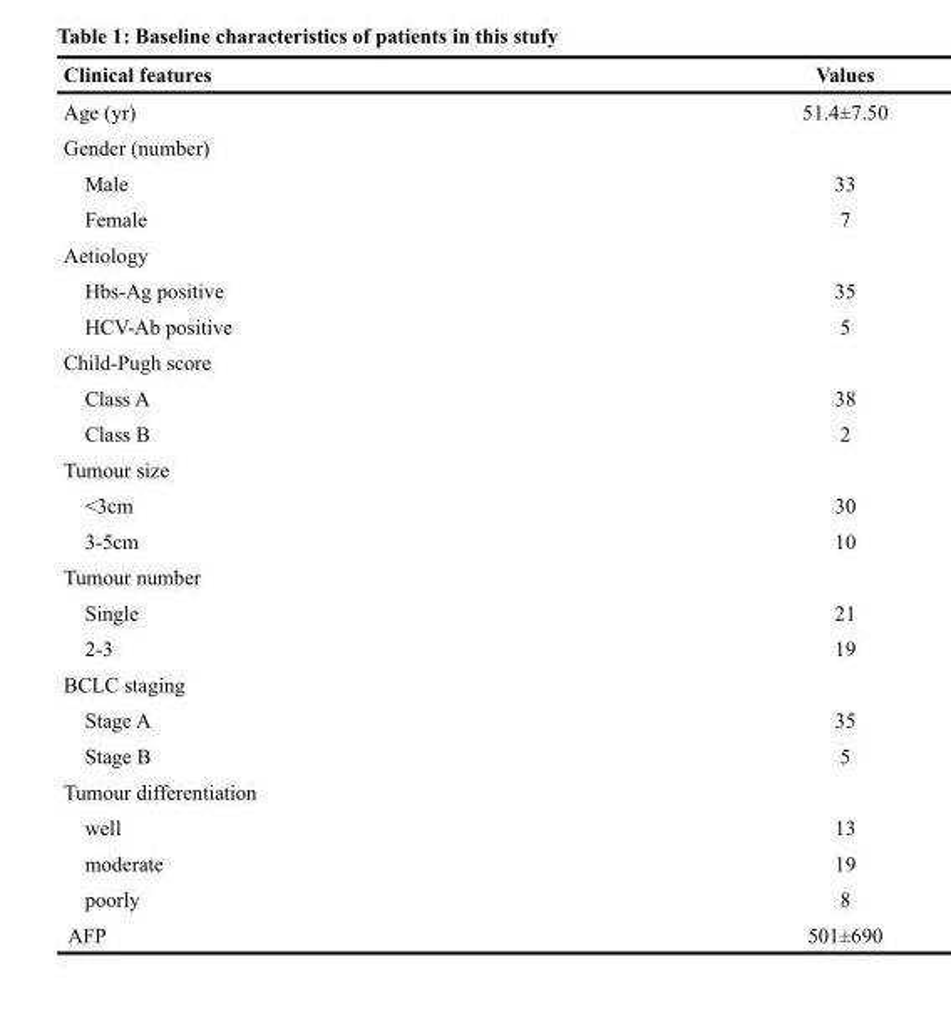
<table><thead><tr><td>Clinical features</td><td>Values</td></tr></thead><tbody><tr><td>Age (yr)</td><td>51.4±7.50</td></tr><tr><td colspan="2">Gender (number)</td></tr><tr><td>Male</td><td>33</td></tr><tr><td>Female</td><td>7</td></tr><tr><td colspan="2">Aetiology</td></tr><tr><td>Hbs-Ag positive</td><td>35</td></tr><tr><td>HCV-Ab positive</td><td>5</td></tr><tr><td colspan="2">Child-Pugh score</td></tr><tr><td>Class A</td><td>38</td></tr><tr><td>Class B</td><td>2</td></tr><tr><td colspan="2">Tumour size</td></tr><tr><td>&lt;3cm</td><td>30</td></tr><tr><td>3-5cm</td><td>10</td></tr><tr><td colspan="2">Tumour number</td></tr><tr><td>Single</td><td>21</td></tr><tr><td>2-3</td><td>19</td></tr><tr><td colspan="2">BCLC staging</td></tr><tr><td>Stage A</td><td>35</td></tr><tr><td>Stage B</td><td>5</td></tr><tr><td colspan="2">Tumour differentiation</td></tr><tr><td>well</td><td>13</td></tr><tr><td>moderate</td><td>19</td></tr><tr><td>poorly</td><td>8</td></tr><tr><td>AFP</td><td>501±690</td></tr></tbody></table>